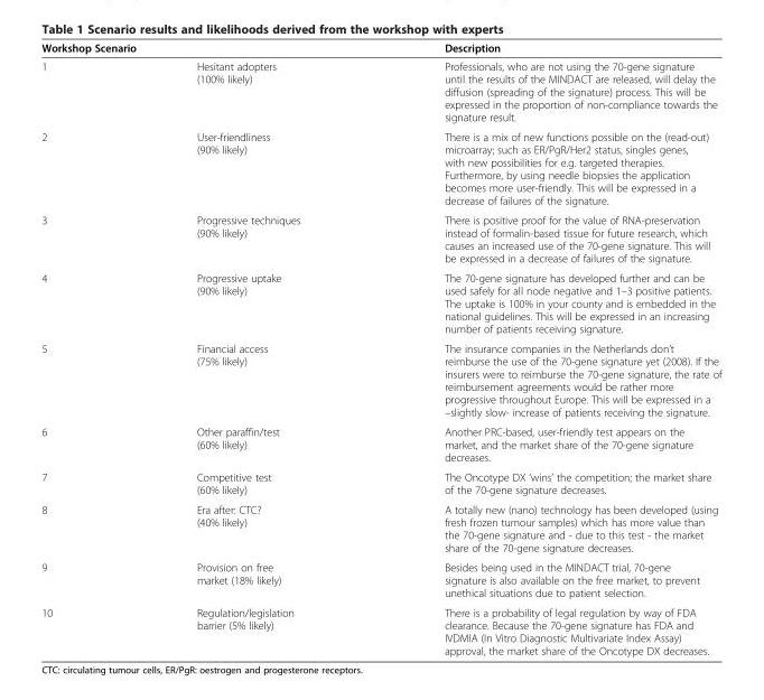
<table><thead><tr><td colspan="2">Workshop Scenario</td><td rowspan="2">Description Professionals, who are not using the 70-gene signature until the results of the MINDACT are released, will delay the diffusion (spreading of the signature) process. This will be expressed in the proportion of non-compliance towards the signature result.</td></tr><tr><td>1</td><td>Hesitant adopters (100% likely)</td></tr></thead><tbody><tr><td>2</td><td>User-friendliness (90% likely)</td><td>There is a mix of new functions possible on the (read-out) microarray; such as ER/PgR/Her2 status, singles genes, with new possibilities for e.g. targeted therapies. Furthermore, by using needle biopsies the application becomes more user-friendly. This will be expressed in a decrease of failures of the signature.</td></tr><tr><td>3</td><td>Progressive techniques (90% likely)</td><td>There is positive proof for the value of RNA-preservation instead of formalin-based tissue for future research, which causes an increased use of the 70-gene signature. This will be expressed in a decrease of failures of the signature.</td></tr><tr><td>4</td><td>Progressive uptake (90% likely)</td><td>The 70-gene signature has developed further and can be used safely for all node negative and 1–3 positive patients. The uptake is 100% in your county and is embedded in the national guidelines. This will be expressed in an increasing number of patients receiving signature.</td></tr><tr><td>5</td><td>Financial access (75% likely)</td><td>The insurance companies in the Netherlands don’t reimburse the use of the 70-gene signature yet (2008). If the insurers were to reimburse the 70-gene signature, the rate of reimbursement agreements would be rather more progressive throughout Europe. This will be expressed in a –slightly slow- increase of patients receiving the signature.</td></tr><tr><td>6</td><td>Other paraffin/test (60% likely)</td><td>Another PRC-based, user-friendly test appears on the market, and the market share of the 70-gene signature decreases.</td></tr><tr><td>7</td><td>Competitive test (60% likely)</td><td>The Oncotype DX ‘wins’ the competition; the market share of the 70-gene signature decreases.</td></tr><tr><td>8</td><td>Era after: CTC? (40% likely)</td><td>A totally new (nano) technology has been developed (using fresh frozen tumour samples) which has more value than the 70-gene signature and - due to this test - the market share of the 70-gene signature decreases.</td></tr><tr><td>9</td><td>Provision on free market (18% likely)</td><td>Besides being used in the MINDACT trial, 70-gene signature is also available on the free market, to prevent unethical situations due to patient selection.</td></tr><tr><td>10</td><td>Regulation/legislation barrier (5% likely)</td><td>There is a probability of legal regulation by way of FDA clearance. Because the 70-gene signature has FDA and IVDMIA (In Vitro Diagnostic Multivariate Index Assay) approval, the market share of the Oncotype DX decreases.</td></tr></tbody></table>